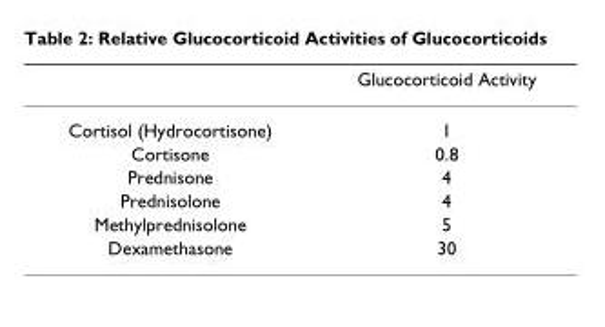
<table><thead><tr><td></td><td>Glucocorticoid Activity</td></tr></thead><tbody><tr><td>Cortisol (Hydrocortisone)</td><td>1</td></tr><tr><td>Cortisone</td><td>0.8</td></tr><tr><td>Prednisone</td><td>4</td></tr><tr><td>Prednisolone</td><td>4</td></tr><tr><td>Methylprednisolone</td><td>5</td></tr><tr><td>Dexamethasone</td><td>30</td></tr></tbody></table>